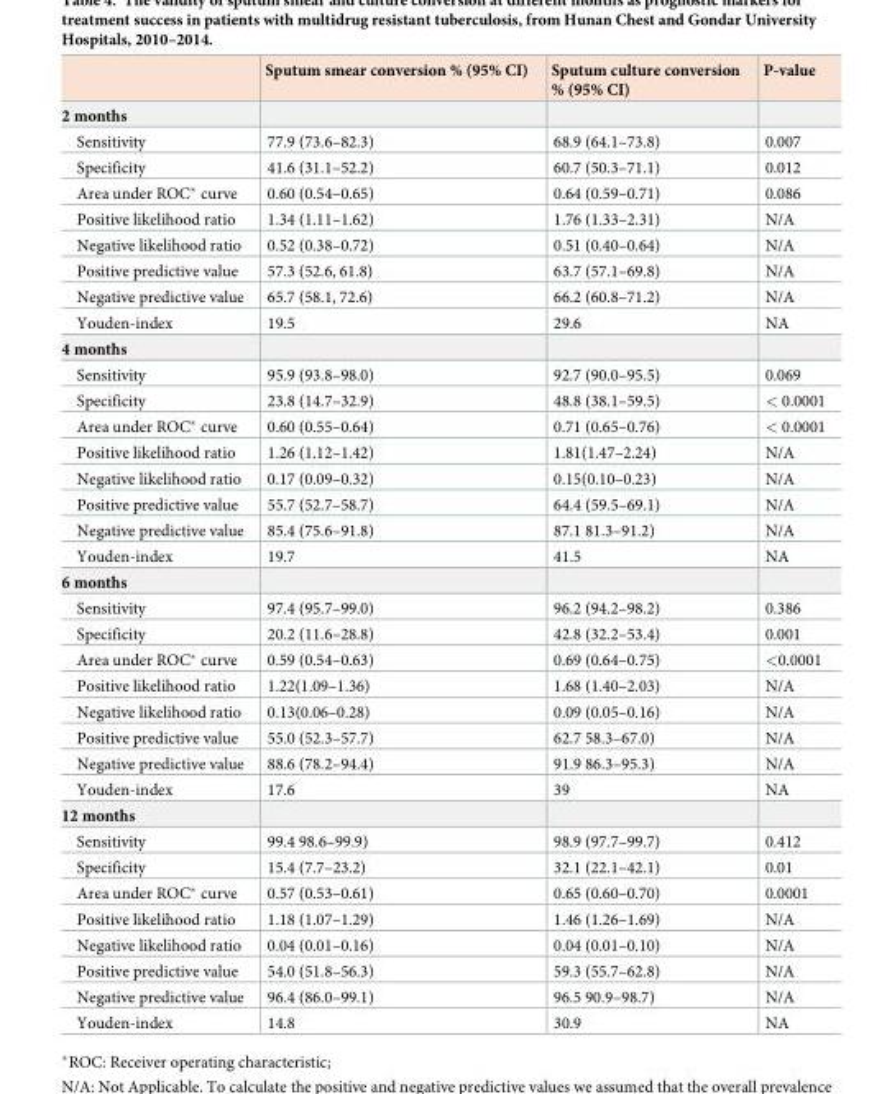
<table><thead><tr><td></td><td>Sputum smear conversion % (95% CI)</td><td>Sputum culture conversion % (95% CI)</td><td>P-value</td></tr></thead><tbody><tr><td colspan="4">2 months</td></tr><tr><td>Sensitivity</td><td>77.9 (73.6–82.3)</td><td>68.9 (64.1–73.8)</td><td>0.007</td></tr><tr><td>Specificity</td><td>41.6 (31.1–52.2)</td><td>60.7 (50.3–71.1)</td><td>0.012</td></tr><tr><td>Area under ROC* curve</td><td>0.60 (0.54–0.65)</td><td>0.64 (0.59–0.71)</td><td>0.086</td></tr><tr><td>Positive likelihood ratio</td><td>1.34 (1.11–1.62)</td><td>1.76 (1.33–2.31)</td><td>N/A</td></tr><tr><td>Negative likelihood ratio</td><td>0.52 (0.38–0.72)</td><td>0.51 (0.40–0.64)</td><td>N/A</td></tr><tr><td>Positive predictive value</td><td>57.3 (52.6, 61.8)</td><td>63.7 (57.1–69.8)</td><td>N/A</td></tr><tr><td>Negative predictive value</td><td>65.7 (58.1, 72.6)</td><td>66.2 (60.8–71.2)</td><td>N/A</td></tr><tr><td>Youden-index</td><td>19.5</td><td>29.6</td><td>NA</td></tr><tr><td colspan="4">4 months</td></tr><tr><td>Sensitivity</td><td>95.9 (93.8–98.0)</td><td>92.7 (90.0–95.5)</td><td>0.069</td></tr><tr><td>Specificity</td><td>23.8 (14.7–32.9)</td><td>48.8 (38.1–59.5)</td><td>&lt; 0.0001</td></tr><tr><td>Area under ROC* curve</td><td>0.60 (0.55–0.64)</td><td>0.71 (0.65–0.76)</td><td>&lt; 0.0001</td></tr><tr><td>Positive likelihood ratio</td><td>1.26 (1.12–1.42)</td><td>1.81(1.47–2.24)</td><td>N/A</td></tr><tr><td>Negative likelihood ratio</td><td>0.17 (0.09–0.32)</td><td>0.15(0.10–0.23)</td><td>N/A</td></tr><tr><td>Positive predictive value</td><td>55.7 (52.7–58.7)</td><td>64.4 (59.5–69.1)</td><td>N/A</td></tr><tr><td>Negative predictive value</td><td>85.4 (75.6–91.8)</td><td>87.1 81.3–91.2)</td><td>N/A</td></tr><tr><td>Youden-index</td><td>19.7</td><td>41.5</td><td>NA</td></tr><tr><td colspan="4">6 months</td></tr><tr><td>Sensitivity</td><td>97.4 (95.7–99.0)</td><td>96.2 (94.2–98.2)</td><td>0.386</td></tr><tr><td>Specificity</td><td>20.2 (11.6–28.8)</td><td>42.8 (32.2–53.4)</td><td>0.001</td></tr><tr><td>Area under ROC* curve</td><td>0.59 (0.54–0.63)</td><td>0.69 (0.64–0.75)</td><td>&lt;0.0001</td></tr><tr><td>Positive likelihood ratio</td><td>1.22(1.09–1.36)</td><td>1.68 (1.40–2.03)</td><td>N/A</td></tr><tr><td>Negative likelihood ratio</td><td>0.13(0.06–0.28)</td><td>0.09 (0.05–0.16)</td><td>N/A</td></tr><tr><td>Positive predictive value</td><td>55.0 (52.3–57.7)</td><td>62.7 58.3–67.0)</td><td>N/A</td></tr><tr><td>Negative predictive value</td><td>88.6 (78.2–94.4)</td><td>91.9 86.3–95.3)</td><td>N/A</td></tr><tr><td>Youden-index</td><td>17.6</td><td>39</td><td>NA</td></tr><tr><td colspan="4">12 months</td></tr><tr><td>Sensitivity</td><td>99.4 98.6–99.9)</td><td>98.9 (97.7–99.7)</td><td>0.412</td></tr><tr><td>Specificity</td><td>15.4 (7.7–23.2)</td><td>32.1 (22.1–42.1)</td><td>0.01</td></tr><tr><td>Area under ROC* curve</td><td>0.57 (0.53–0.61)</td><td>0.65 (0.60–0.70)</td><td>0.0001</td></tr><tr><td>Positive likelihood ratio</td><td>1.18 (1.07–1.29)</td><td>1.46 (1.26–1.69)</td><td>N/A</td></tr><tr><td>Negative likelihood ratio</td><td>0.04 (0.01–0.16)</td><td>0.04 (0.01–0.10)</td><td>N/A</td></tr><tr><td>Positive predictive value</td><td>54.0 (51.8–56.3)</td><td>59.3 (55.7–62.8)</td><td>N/A</td></tr><tr><td>Negative predictive value</td><td>96.4 (86.0–99.1)</td><td>96.5 90.9–98.7)</td><td>N/A</td></tr><tr><td>Youden-index</td><td>14.8</td><td>30.9</td><td>NA</td></tr></tbody></table>